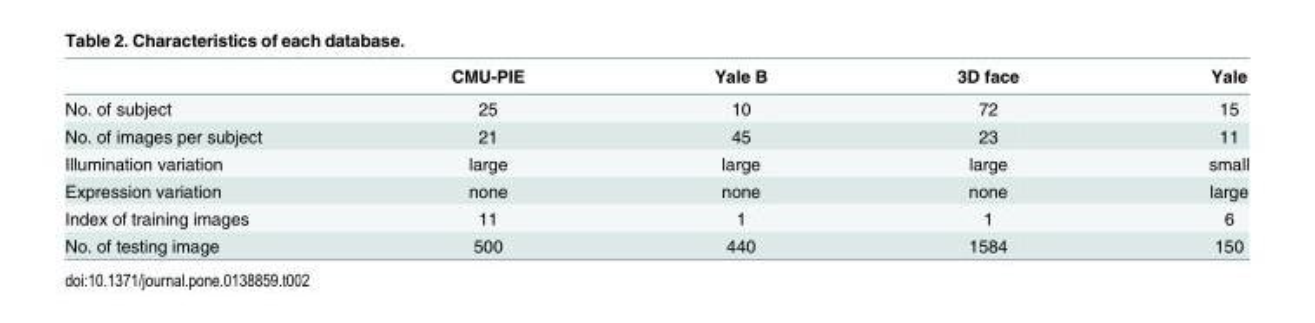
<table><thead><tr><td></td><td>CMU-PIE</td><td>Yale B</td><td>3D face</td><td>Yale</td></tr></thead><tbody><tr><td>No. of subject</td><td>25</td><td>10</td><td>72</td><td>15</td></tr><tr><td>No. of images per subject</td><td>21</td><td>45</td><td>23</td><td>11</td></tr><tr><td>Illumination variation</td><td>large</td><td>large</td><td>large</td><td>small</td></tr><tr><td>Expression variation</td><td>none</td><td>none</td><td>none</td><td>large</td></tr><tr><td>Index of training images</td><td>11</td><td>1</td><td>1</td><td>6</td></tr><tr><td>No. of testing image</td><td>500</td><td>440</td><td>1584</td><td>150</td></tr></tbody></table>